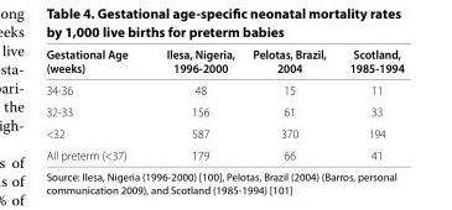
<table><thead><tr><td>Gestational Age (weeks)</td><td>Ilesa, Nigeria, 1996-2000</td><td>Pelotas, Brazil, 2004</td><td>Scotland, 1985-1994</td></tr></thead><tbody><tr><td>34-36</td><td>48</td><td>15</td><td>11</td></tr><tr><td>32-33</td><td>156</td><td>61</td><td>33</td></tr><tr><td>&lt;32</td><td>587</td><td>370</td><td>194</td></tr><tr><td>All preterm (&lt;37)</td><td>179</td><td>66</td><td>41</td></tr></tbody></table>